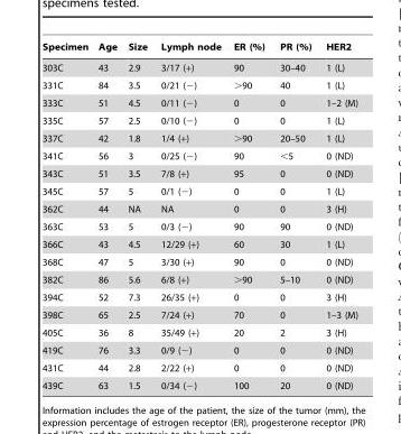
<table><thead><tr><td>Specimen</td><td>Age</td><td>Size</td><td>Lymph node</td><td>ER (%)</td><td>PR (%)</td><td>HER2</td></tr></thead><tbody><tr><td>303C</td><td>43</td><td>2.9</td><td>3/17 (+)</td><td>90</td><td>30–40</td><td>1 (L)</td></tr><tr><td>331C</td><td>84</td><td>3.5</td><td>0/21 (−)</td><td>&gt;90</td><td>40</td><td>1 (L)</td></tr><tr><td>333C</td><td>51</td><td>4.5</td><td>0/11 (−)</td><td>0</td><td>0</td><td>1–2 (M)</td></tr><tr><td>335C</td><td>57</td><td>2.5</td><td>0/10 (−)</td><td>0</td><td>0</td><td>1 (L)</td></tr><tr><td>337C</td><td>42</td><td>1.8</td><td>1/4 (+)</td><td>&gt;90</td><td>20–50</td><td>1 (L)</td></tr><tr><td>341C</td><td>56</td><td>3</td><td>0/25 (−)</td><td>90</td><td>&lt;5</td><td>0 (ND)</td></tr><tr><td>343C</td><td>51</td><td>3.5</td><td>7/8 (+)</td><td>95</td><td>0</td><td>0 (ND)</td></tr><tr><td>345C</td><td>57</td><td>5</td><td>0/1 (−)</td><td>0</td><td>0</td><td>1 (L)</td></tr><tr><td>362C</td><td>44</td><td>NA</td><td>NA</td><td>0</td><td>0</td><td>3 (H)</td></tr><tr><td>363C</td><td>53</td><td>5</td><td>0/3 (−)</td><td>90</td><td>90</td><td>0 (ND)</td></tr><tr><td>366C</td><td>43</td><td>4.5</td><td>12/29 (+)</td><td>60</td><td>30</td><td>1 (L)</td></tr><tr><td>368C</td><td>47</td><td>5</td><td>3/30 (+)</td><td>90</td><td>0</td><td>0 (ND)</td></tr><tr><td>382C</td><td>86</td><td>5.6</td><td>6/8 (+)</td><td>&gt;90</td><td>5–10</td><td>0 (ND)</td></tr><tr><td>394C</td><td>52</td><td>7.3</td><td>26/35 (+)</td><td>0</td><td>0</td><td>3 (H)</td></tr><tr><td>398C</td><td>65</td><td>2.5</td><td>7/24 (+)</td><td>70</td><td>0</td><td>1–3 (M)</td></tr><tr><td>405C</td><td>36</td><td>8</td><td>35/49 (+)</td><td>20</td><td>2</td><td>3 (H)</td></tr><tr><td>419C</td><td>76</td><td>3.3</td><td>0/9 (−)</td><td>0</td><td>0</td><td>0 (ND)</td></tr><tr><td>431C</td><td>44</td><td>2.8</td><td>2/22 (+)</td><td>0</td><td>0</td><td>0 (ND)</td></tr><tr><td>439C</td><td>63</td><td>1.5</td><td>0/34 (−)</td><td>100</td><td>20</td><td>0 (ND)</td></tr></tbody></table>